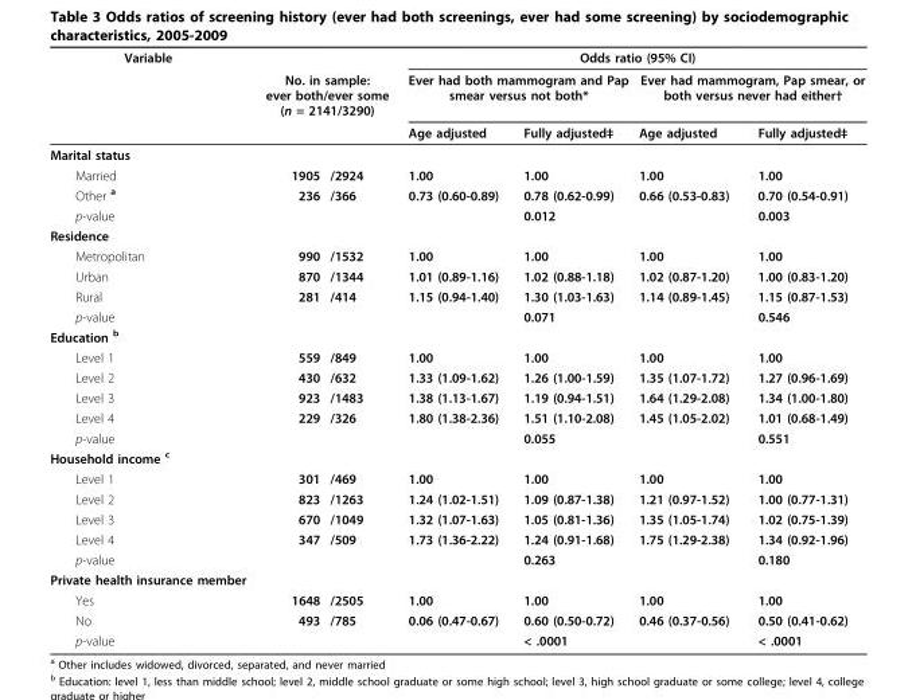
<table><thead><tr><td rowspan="3">Variable</td><td></td><td></td><td colspan="4">Odds ratio (95% CI)</td></tr><tr><td colspan="2">No. in sample: ever both/ever some (n = 2141/3290)</td><td colspan="2">Ever had both mammogram and Pap smear versus not both*</td><td colspan="2">Ever had mammogram, Pap smear, or both versus never had either†</td></tr><tr><td></td><td></td><td>Age adjusted</td><td>Fully adjusted‡</td><td>Age adjusted</td><td>Fully adjusted‡</td></tr></thead><tbody><tr><td colspan="7">Marital status</td></tr><tr><td>Married</td><td>1905</td><td>/2924</td><td>1.00</td><td>1.00</td><td>1.00</td><td>1.00</td></tr><tr><td>Other <sup>a</sup></td><td>236</td><td>/366</td><td>0.73 (0.60-0.89)</td><td>0.78 (0.62-0.99)</td><td>0.66 (0.53-0.83)</td><td>0.70 (0.54-0.91)</td></tr><tr><td>p-value</td><td></td><td></td><td></td><td>0.012</td><td></td><td>0.003</td></tr><tr><td colspan="7">Residence</td></tr><tr><td>Metropolitan</td><td>990</td><td>/1532</td><td>1.00</td><td>1.00</td><td>1.00</td><td>1.00</td></tr><tr><td>Urban</td><td>870</td><td>/1344</td><td>1.01 (0.89-1.16)</td><td>1.02 (0.88-1.18)</td><td>1.02 (0.87-1.20)</td><td>1.00 (0.83-1.20)</td></tr><tr><td>Rural</td><td>281</td><td>/414</td><td>1.15 (0.94-1.40)</td><td>1.30 (1.03-1.63)</td><td>1.14 (0.89-1.45)</td><td>1.15 (0.87-1.53)</td></tr><tr><td>p-value</td><td></td><td></td><td></td><td>0.071</td><td></td><td>0.546</td></tr><tr><td colspan="7">Education <sup>b</sup></td></tr><tr><td>Level 1</td><td>559</td><td>/849</td><td>1.00</td><td>1.00</td><td>1.00</td><td>1.00</td></tr><tr><td>Level 2</td><td>430</td><td>/632</td><td>1.33 (1.09-1.62)</td><td>1.26 (1.00-1.59)</td><td>1.35 (1.07-1.72)</td><td>1.27 (0.96-1.69)</td></tr><tr><td>Level 3</td><td>923</td><td>/1483</td><td>1.38 (1.13-1.67)</td><td>1.19 (0.94-1.51)</td><td>1.64 (1.29-2.08)</td><td>1.34 (1.00-1.80)</td></tr><tr><td>Level 4</td><td>229</td><td>/326</td><td>1.80 (1.38-2.36)</td><td>1.51 (1.10-2.08)</td><td>1.45 (1.05-2.02)</td><td>1.01 (0.68-1.49)</td></tr><tr><td>p-value</td><td></td><td></td><td></td><td>0.055</td><td></td><td>0.551</td></tr><tr><td colspan="7">Household income <sup>c</sup></td></tr><tr><td>Level 1</td><td>301</td><td>/469</td><td>1.00</td><td>1.00</td><td>1.00</td><td>1.00</td></tr><tr><td>Level 2</td><td>823</td><td>/1263</td><td>1.24 (1.02-1.51)</td><td>1.09 (0.87-1.38)</td><td>1.21 (0.97-1.52)</td><td>1.00 (0.77-1.31)</td></tr><tr><td>Level 3</td><td>670</td><td>/1049</td><td>1.32 (1.07-1.63)</td><td>1.05 (0.81-1.36)</td><td>1.35 (1.05-1.74)</td><td>1.02 (0.75-1.39)</td></tr><tr><td>Level 4</td><td>347</td><td>/509</td><td>1.73 (1.36-2.22)</td><td>1.24 (0.91-1.68)</td><td>1.75 (1.29-2.38)</td><td>1.34 (0.92-1.96)</td></tr><tr><td>p-value</td><td></td><td></td><td></td><td>0.263</td><td></td><td>0.180</td></tr><tr><td colspan="7">Private health insurance member</td></tr><tr><td>Yes</td><td>1648</td><td>/2505</td><td>1.00</td><td>1.00</td><td>1.00</td><td>1.00</td></tr><tr><td>No</td><td>493</td><td>/785</td><td>0.06 (0.47-0.67)</td><td>0.60 (0.50-0.72)</td><td>0.46 (0.37-0.56)</td><td>0.50 (0.41-0.62)</td></tr><tr><td>p-value</td><td></td><td></td><td></td><td>&lt; .0001</td><td></td><td>&lt; .0001</td></tr></tbody></table>